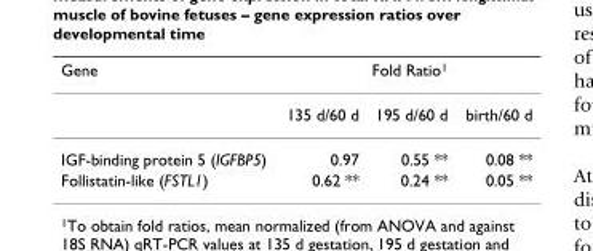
<table><thead><tr><td rowspan="2">Gene</td><td colspan="3">Fold Ratio<sup>1</sup></td></tr><tr><td>135 d/60 d</td><td>195 d/60 d</td><td>birth/60 d</td></tr></thead><tbody><tr><td>IGF-binding protein 5 (IGFBP5)</td><td>0.97</td><td>0.55 **</td><td>0.08 **</td></tr><tr><td>Follistatin-like (FSTL1)</td><td>0.62 **</td><td>0.24 **</td><td>0.05 **</td></tr></tbody></table>